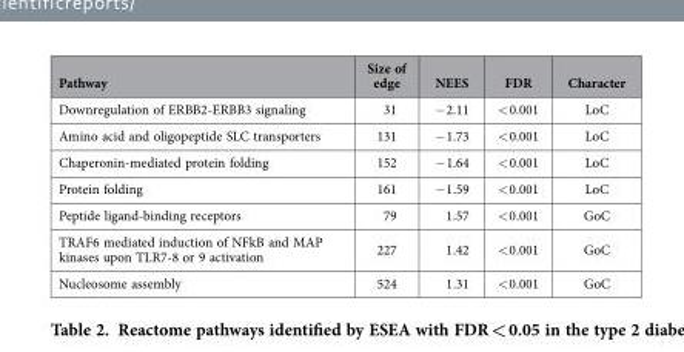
<table><thead><tr><td>Pathway</td><td>Size of edge</td><td>NEES</td><td>FDR</td><td>Character</td></tr></thead><tbody><tr><td>Downregulation of ERBB2-ERBB3 signaling</td><td>31</td><td>− 2.11</td><td>&lt; 0.001</td><td>LoC</td></tr><tr><td>Amino acid and oligopeptide SLC transporters</td><td>131</td><td>− 1.73</td><td>&lt; 0.001</td><td>LoC</td></tr><tr><td>Chaperonin-mediated protein folding</td><td>152</td><td>− 1.64</td><td>&lt; 0.001</td><td>LoC</td></tr><tr><td>Protein folding</td><td>161</td><td>− 1.59</td><td>&lt; 0.001</td><td>LoC</td></tr><tr><td>Peptide ligand-binding receptors</td><td>79</td><td>1.57</td><td>&lt; 0.001</td><td>GoC</td></tr><tr><td>TRAF6 mediated induction of NFkB and MAP kinases upon TLR7-8 or 9 activation</td><td>227</td><td>1.42</td><td>&lt; 0.001</td><td>GoC</td></tr><tr><td>Nucleosome assembly</td><td>524</td><td>1.31</td><td>&lt; 0.001</td><td>GoC</td></tr></tbody></table>